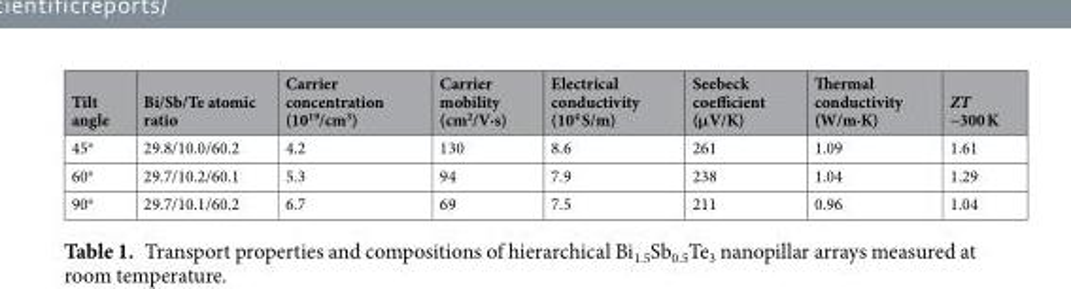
<table><thead><tr><td>Tilt angle</td><td>Bi/Sb/Te atomic ratio</td><td>Carrier concentration (10<sup>19</sup>/cm<sup>3</sup>)</td><td>Carrier mobility (cm<sup>2</sup>/V·s)</td><td>Electrical conductivity (10<sup>4</sup> S/m)</td><td>Seebeck coefficient (μV/K)</td><td>Thermal conductivity (W/m·K)</td><td>ZT ~300 K</td></tr></thead><tbody><tr><td>45<sup>o</sup></td><td>29.8/10.0/60.2</td><td>4.2</td><td>130</td><td>8.6</td><td>261</td><td>1.09</td><td>1.61</td></tr><tr><td>60<sup>o</sup></td><td>29.7/10.2/60.1</td><td>5.3</td><td>94</td><td>7.9</td><td>238</td><td>1.04</td><td>1.29</td></tr><tr><td>90<sup>o</sup></td><td>29.7/10.1/60.2</td><td>6.7</td><td>69</td><td>7.5</td><td>211</td><td>0.96</td><td>1.04</td></tr></tbody></table>